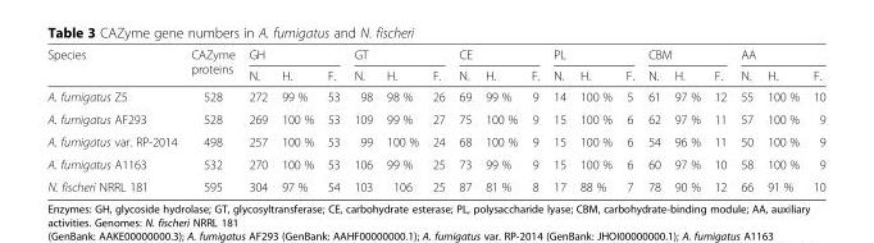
<table><thead><tr><td rowspan="2">Species</td><td rowspan="2">CAZyme proteins</td><td colspan="3">GH</td><td colspan="3">GT</td><td colspan="3">CE</td><td colspan="3">PL</td><td colspan="3">CBM</td><td colspan="3">AA</td></tr><tr><td>N.</td><td>H.</td><td>F.</td><td>N.</td><td>H.</td><td>F.</td><td>N.</td><td>H.</td><td>F.</td><td>N.</td><td>H.</td><td>F.</td><td>N.</td><td>H.</td><td>F.</td><td>N.</td><td>H.</td><td>F.</td></tr></thead><tbody><tr><td>A. fumigatus Z5</td><td>528</td><td>272</td><td>99 %</td><td>53</td><td>98</td><td>98 %</td><td>26</td><td>69</td><td>99 %</td><td>9</td><td>14</td><td>100 %</td><td>5</td><td>61</td><td>97 %</td><td>12</td><td>55</td><td>100 %</td><td>10</td></tr><tr><td>A. fumigatus AF293</td><td>528</td><td>269</td><td>100 %</td><td>53</td><td>109</td><td>99 %</td><td>27</td><td>75</td><td>100 %</td><td>9</td><td>15</td><td>100 %</td><td>6</td><td>62</td><td>97 %</td><td>11</td><td>57</td><td>100 %</td><td>9</td></tr><tr><td>A. fumigatus var. RP-2014</td><td>498</td><td>257</td><td>100 %</td><td>53</td><td>99</td><td>100 %</td><td>24</td><td>68</td><td>100 %</td><td>9</td><td>15</td><td>100 %</td><td>6</td><td>54</td><td>96 %</td><td>11</td><td>50</td><td>100 %</td><td>9</td></tr><tr><td>A. fumigatus A1163</td><td>532</td><td>270</td><td>100 %</td><td>53</td><td>106</td><td>99 %</td><td>25</td><td>73</td><td>99 %</td><td>9</td><td>15</td><td>100 %</td><td>6</td><td>60</td><td>97 %</td><td>10</td><td>58</td><td>100 %</td><td>9</td></tr><tr><td>N. fischeri NRRL 181</td><td>595</td><td>304</td><td>97 %</td><td>54</td><td>103</td><td>106</td><td>25</td><td>87</td><td>81 %</td><td>8</td><td>17</td><td>88 %</td><td>7</td><td>78</td><td>90 %</td><td>12</td><td>66</td><td>91 %</td><td>10</td></tr></tbody></table>